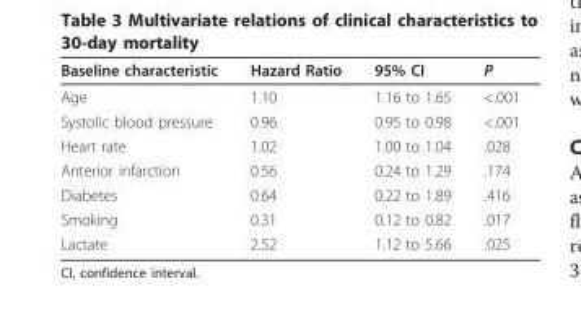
<table><thead><tr><td>Baseline characteristic</td><td>Hazard Ratio</td><td>95% CI</td><td>P</td></tr></thead><tbody><tr><td>Age</td><td>1.10</td><td>1.16 to 1.65</td><td>&lt;.001</td></tr><tr><td>Systolic blood pressure</td><td>0.96</td><td>0.95 to 0.98</td><td>&lt;.001</td></tr><tr><td>Heart rate</td><td>1.02</td><td>1.00 to 1.04</td><td>.028</td></tr><tr><td>Anterior infarction</td><td>0.56</td><td>0.24 to 1.29</td><td>.174</td></tr><tr><td>Diabetes</td><td>0.64</td><td>0.22 to 1.89</td><td>.416</td></tr><tr><td>Smoking</td><td>0.31</td><td>0.12 to 0.82</td><td>.017</td></tr><tr><td>Lactate</td><td>2.52</td><td>1.12 to 5.66</td><td>.025</td></tr></tbody></table>